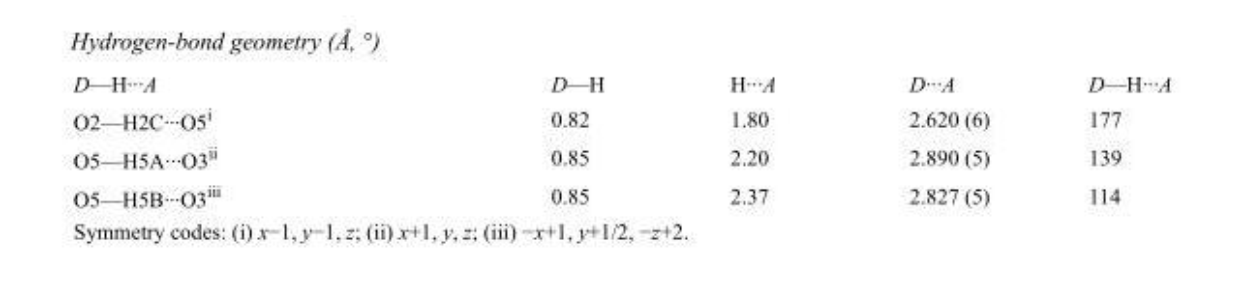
<table><tbody><tr><td>D—H···A</td><td>D—H</td><td>H···A</td><td>D···A</td><td>D—H···A</td></tr><tr><td>O2—H2C···O5<sup>i</sup></td><td>0.82</td><td>1.80</td><td>2.620 (6)</td><td>177</td></tr><tr><td>O5—H5A···O3<sup>ii</sup></td><td>0.85</td><td>2.20</td><td>2.890 (5)</td><td>139</td></tr><tr><td>O5—H5B···O3<sup>iii</sup></td><td>0.85</td><td>2.37</td><td>2.827 (5)</td><td>114</td></tr></tbody></table>